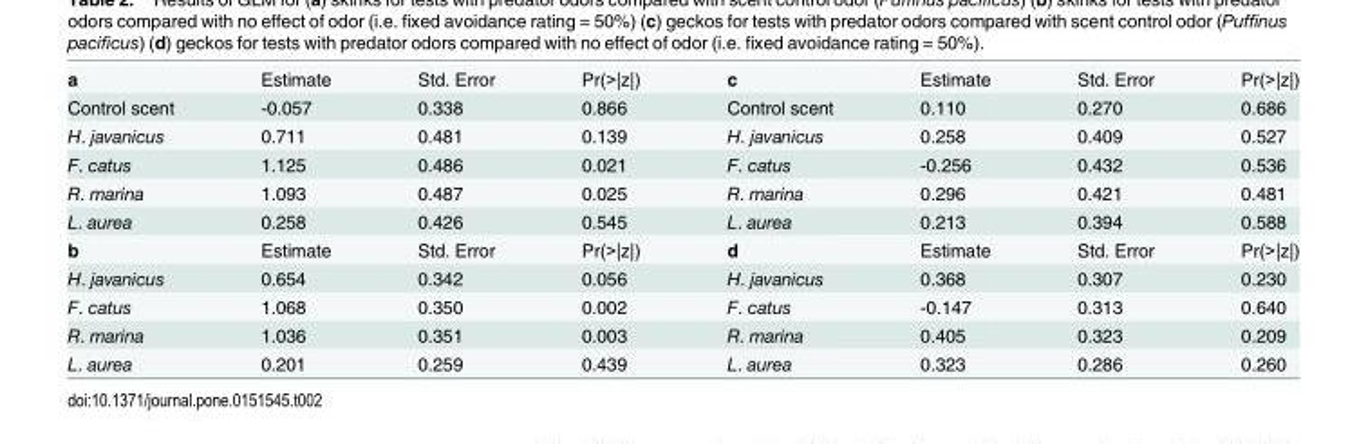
<table><tbody><tr><td>a</td><td>Estimate</td><td>Std. Error</td><td>Pr(&gt;|z|)</td><td>c</td><td>Estimate</td><td>Std. Error</td><td>Pr(&gt;|z|)</td></tr><tr><td>Control scent</td><td>-0.057</td><td>0.338</td><td>0.866</td><td>Control scent</td><td>0.110</td><td>0.270</td><td>0.686</td></tr><tr><td>H. javanicus</td><td>0.711</td><td>0.481</td><td>0.139</td><td>H. javanicus</td><td>0.258</td><td>0.409</td><td>0.527</td></tr><tr><td>F. catus</td><td>1.125</td><td>0.486</td><td>0.021</td><td>F. catus</td><td>-0.256</td><td>0.432</td><td>0.536</td></tr><tr><td>R. marina</td><td>1.093</td><td>0.487</td><td>0.025</td><td>R. marina</td><td>0.296</td><td>0.421</td><td>0.481</td></tr><tr><td>L. aurea</td><td>0.258</td><td>0.426</td><td>0.545</td><td>L. aurea</td><td>0.213</td><td>0.394</td><td>0.588</td></tr><tr><td>b</td><td>Estimate</td><td>Std. Error</td><td>Pr(&gt;|z|)</td><td>d</td><td>Estimate</td><td>Std. Error</td><td>Pr(&gt;|z|)</td></tr><tr><td>H. javanicus</td><td>0.654</td><td>0.342</td><td>0.056</td><td>H. javanicus</td><td>0.368</td><td>0.307</td><td>0.230</td></tr><tr><td>F. catus</td><td>1.068</td><td>0.350</td><td>0.002</td><td>F. catus</td><td>-0.147</td><td>0.313</td><td>0.640</td></tr><tr><td>R. marina</td><td>1.036</td><td>0.351</td><td>0.003</td><td>R. marina</td><td>0.405</td><td>0.323</td><td>0.209</td></tr><tr><td>L. aurea</td><td>0.201</td><td>0.259</td><td>0.439</td><td>L. aurea</td><td>0.323</td><td>0.286</td><td>0.260</td></tr></tbody></table>